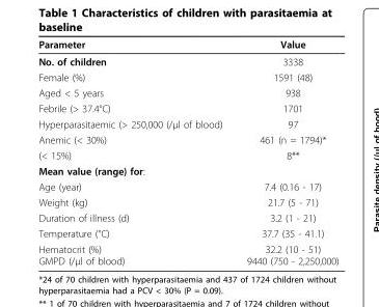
<table><thead><tr><td>Parameter</td><td>Value</td></tr></thead><tbody><tr><td>No. of children</td><td>3338</td></tr><tr><td>Female (%)</td><td>1591 (48)</td></tr><tr><td>Aged &lt; 5 years</td><td>938</td></tr><tr><td>Febrile (&gt; 37.4°C)</td><td>1701</td></tr><tr><td>Hyperparasitaemic (&gt; 250,000 (/μl of blood)</td><td>97</td></tr><tr><td>Anemic (&lt; 30%)</td><td>461 (n = 1794)*</td></tr><tr><td>(&lt; 15%)</td><td>8**</td></tr><tr><td colspan="2">Mean value (range) for:</td></tr><tr><td>Age (year)</td><td>7.4 (0.16 - 17)</td></tr><tr><td>Weight (kg)</td><td>21.7 (5 - 71)</td></tr><tr><td>Duration of illness (d)</td><td>3.2 (1 - 21)</td></tr><tr><td>Temperature (°C)</td><td>37.7 (35 - 41.1)</td></tr><tr><td>Hematocrit (%) GMPD (/μl of blood)</td><td>32.2 (10 - 51) 9440 (750 - 2,250,000)</td></tr></tbody></table>